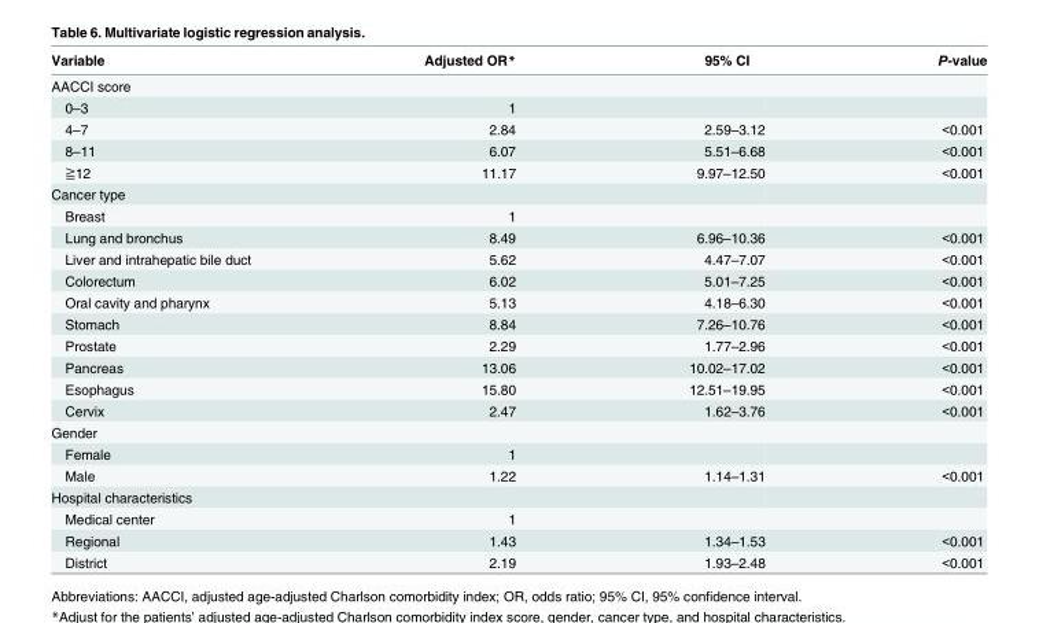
<table><thead><tr><td>Variable</td><td>Adjusted OR*</td><td>95% CI</td><td>P-value</td></tr></thead><tbody><tr><td colspan="4">AACCI score</td></tr><tr><td>0–3</td><td>1</td><td></td><td></td></tr><tr><td>4–7</td><td>2.84</td><td>2.59–3.12</td><td>&lt;0.001</td></tr><tr><td>8–11</td><td>6.07</td><td>5.51–6.68</td><td>&lt;0.001</td></tr><tr><td>≧12</td><td>11.17</td><td>9.97–12.50</td><td>&lt;0.001</td></tr><tr><td colspan="4">Cancer type</td></tr><tr><td>Breast</td><td>1</td><td></td><td></td></tr><tr><td>Lung and bronchus</td><td>8.49</td><td>6.96–10.36</td><td>&lt;0.001</td></tr><tr><td>Liver and intrahepatic bile duct</td><td>5.62</td><td>4.47–7.07</td><td>&lt;0.001</td></tr><tr><td>Colorectum</td><td>6.02</td><td>5.01–7.25</td><td>&lt;0.001</td></tr><tr><td>Oral cavity and pharynx</td><td>5.13</td><td>4.18–6.30</td><td>&lt;0.001</td></tr><tr><td>Stomach</td><td>8.84</td><td>7.26–10.76</td><td>&lt;0.001</td></tr><tr><td>Prostate</td><td>2.29</td><td>1.77–2.96</td><td>&lt;0.001</td></tr><tr><td>Pancreas</td><td>13.06</td><td>10.02–17.02</td><td>&lt;0.001</td></tr><tr><td>Esophagus</td><td>15.80</td><td>12.51–19.95</td><td>&lt;0.001</td></tr><tr><td>Cervix</td><td>2.47</td><td>1.62–3.76</td><td>&lt;0.001</td></tr><tr><td colspan="4">Gender</td></tr><tr><td>Female</td><td>1</td><td></td><td></td></tr><tr><td>Male</td><td>1.22</td><td>1.14–1.31</td><td>&lt;0.001</td></tr><tr><td colspan="4">Hospital characteristics</td></tr><tr><td>Medical center</td><td>1</td><td></td><td></td></tr><tr><td>Regional</td><td>1.43</td><td>1.34–1.53</td><td>&lt;0.001</td></tr><tr><td>District</td><td>2.19</td><td>1.93–2.48</td><td>&lt;0.001</td></tr></tbody></table>